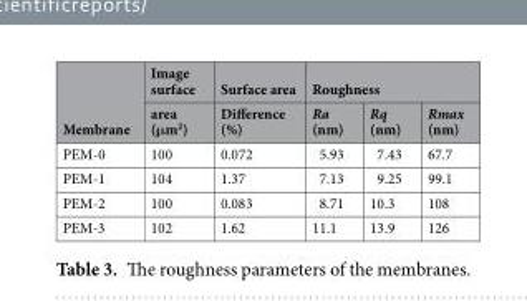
<table><thead><tr><td rowspan="2">Membrane</td><td rowspan="2">Image surface area (μm<sup>2</sup>)</td><td rowspan="2">Surface area Difference (%)</td><td colspan="3">Roughness</td></tr><tr><td>Ra (nm)</td><td>Rq (nm)</td><td>Rmax (nm)</td></tr></thead><tbody><tr><td>PEM-0</td><td>100</td><td>0.072</td><td>5.93</td><td>7.43</td><td>67.7</td></tr><tr><td>PEM-1</td><td>104</td><td>1.37</td><td>7.13</td><td>9.25</td><td>99.1</td></tr><tr><td>PEM-2</td><td>100</td><td>0.083</td><td>8.71</td><td>10.3</td><td>108</td></tr><tr><td>PEM-3</td><td>102</td><td>1.62</td><td>11.1</td><td>13.9</td><td>126</td></tr></tbody></table>